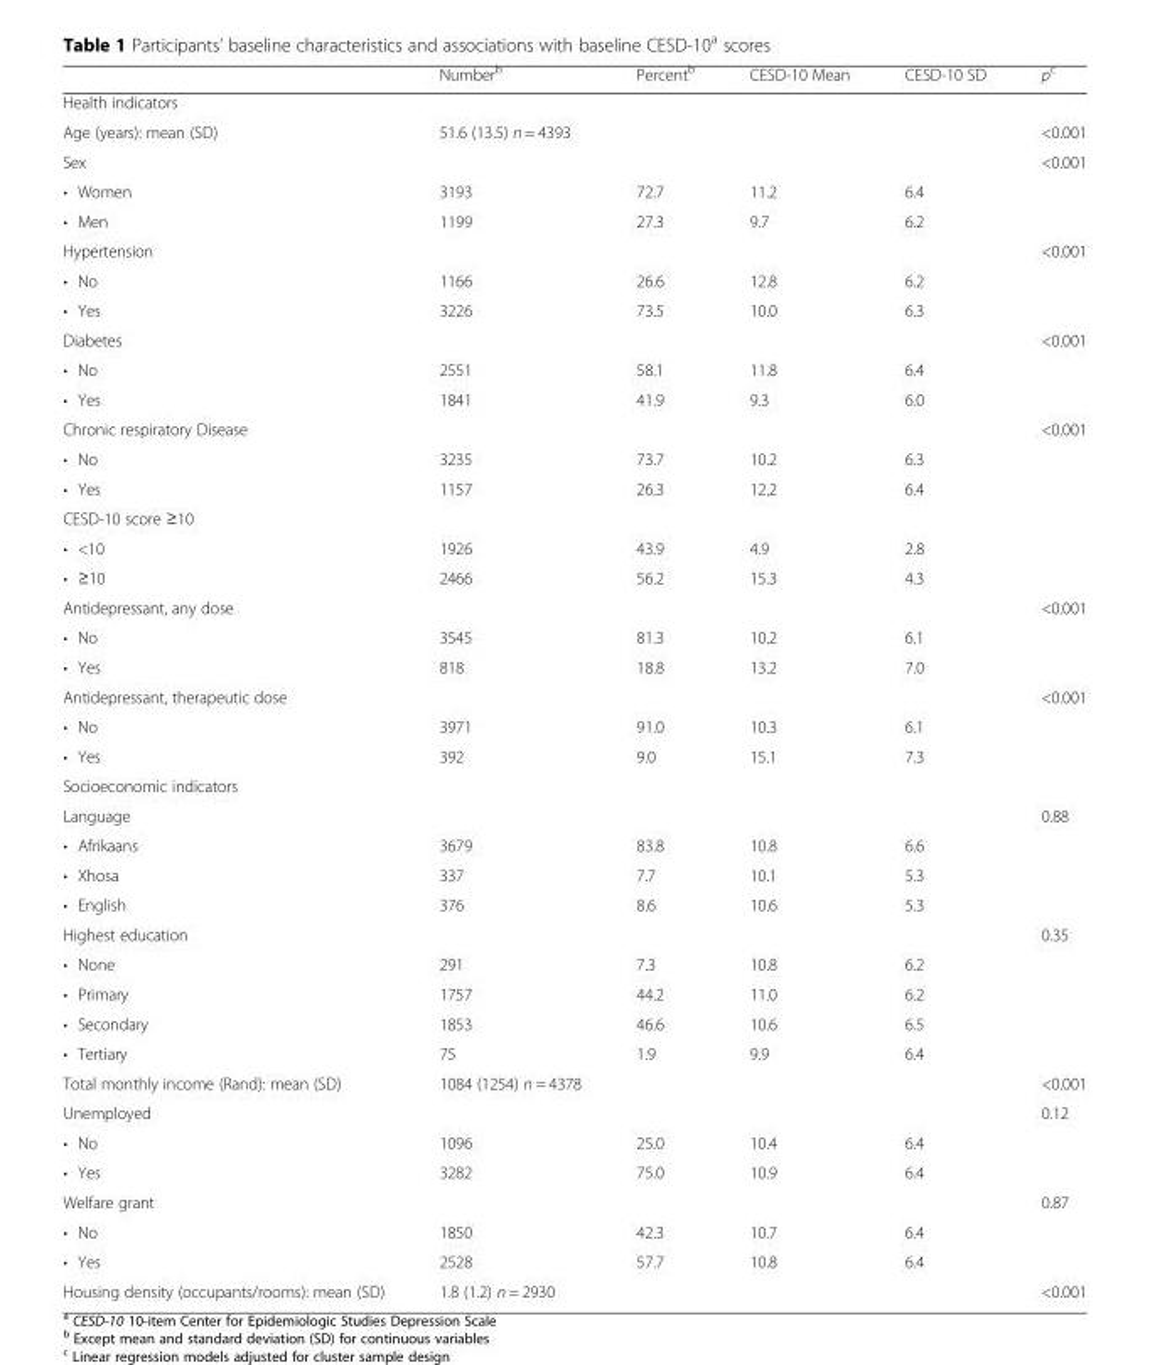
<table><thead><tr><td></td><td>Number<sup>b</sup></td><td>Percent<sup>b</sup></td><td>CESD-10 Mean</td><td>CESD-10 SD</td><td>p<sup>c</sup></td></tr></thead><tbody><tr><td colspan="6">Health indicators</td></tr><tr><td>Age (years): mean (SD)</td><td>51.6 (13.5) n = 4393</td><td></td><td></td><td></td><td>&lt;0.001</td></tr><tr><td>Sex</td><td></td><td></td><td></td><td></td><td>&lt;0.001</td></tr><tr><td>• Women</td><td>3193</td><td>72.7</td><td>11.2</td><td>6.4</td><td></td></tr><tr><td>• Men</td><td>1199</td><td>27.3</td><td>9.7</td><td>6.2</td><td></td></tr><tr><td>Hypertension</td><td></td><td></td><td></td><td></td><td>&lt;0.001</td></tr><tr><td>• No</td><td>1166</td><td>26.6</td><td>12.8</td><td>6.2</td><td></td></tr><tr><td>• Yes</td><td>3226</td><td>73.5</td><td>10.0</td><td>6.3</td><td></td></tr><tr><td>Diabetes</td><td></td><td></td><td></td><td></td><td>&lt;0.001</td></tr><tr><td>• No</td><td>2551</td><td>58.1</td><td>11.8</td><td>6.4</td><td></td></tr><tr><td>• Yes</td><td>1841</td><td>41.9</td><td>9.3</td><td>6.0</td><td></td></tr><tr><td>Chronic respiratory Disease</td><td></td><td></td><td></td><td></td><td>&lt;0.001</td></tr><tr><td>• No</td><td>3235</td><td>73.7</td><td>10.2</td><td>6.3</td><td></td></tr><tr><td>• Yes</td><td>1157</td><td>26.3</td><td>12.2</td><td>6.4</td><td></td></tr><tr><td colspan="6">CESD-10 score ≥10</td></tr><tr><td>• &lt;10</td><td>1926</td><td>43.9</td><td>4.9</td><td>2.8</td><td></td></tr><tr><td>• ≥10</td><td>2466</td><td>56.2</td><td>15.3</td><td>4.3</td><td></td></tr><tr><td>Antidepressant, any dose</td><td></td><td></td><td></td><td></td><td>&lt;0.001</td></tr><tr><td>• No</td><td>3545</td><td>81.3</td><td>10.2</td><td>6.1</td><td></td></tr><tr><td>• Yes</td><td>818</td><td>18.8</td><td>13.2</td><td>7.0</td><td></td></tr><tr><td>Antidepressant, therapeutic dose</td><td></td><td></td><td></td><td></td><td>&lt;0.001</td></tr><tr><td>• No</td><td>3971</td><td>91.0</td><td>10.3</td><td>6.1</td><td></td></tr><tr><td>• Yes</td><td>392</td><td>9.0</td><td>15.1</td><td>7.3</td><td></td></tr><tr><td colspan="6">Socioeconomic indicators</td></tr><tr><td>Language</td><td></td><td></td><td></td><td></td><td>0.88</td></tr><tr><td>• Afrikaans</td><td>3679</td><td>83.8</td><td>10.8</td><td>6.6</td><td></td></tr><tr><td>• Xhosa</td><td>337</td><td>7.7</td><td>10.1</td><td>5.3</td><td></td></tr><tr><td>• English</td><td>376</td><td>8.6</td><td>10.6</td><td>5.3</td><td></td></tr><tr><td>Highest education</td><td></td><td></td><td></td><td></td><td>0.35</td></tr><tr><td>• None</td><td>291</td><td>7.3</td><td>10.8</td><td>6.2</td><td></td></tr><tr><td>• Primary</td><td>1757</td><td>44.2</td><td>11.0</td><td>6.2</td><td></td></tr><tr><td>• Secondary</td><td>1853</td><td>46.6</td><td>10.6</td><td>6.5</td><td></td></tr><tr><td>• Tertiary</td><td>75</td><td>1.9</td><td>9.9</td><td>6.4</td><td></td></tr><tr><td>Total monthly income (Rand): mean (SD)</td><td>1084 (1254) n = 4378</td><td></td><td></td><td></td><td>&lt;0.001</td></tr><tr><td>Unemployed</td><td></td><td></td><td></td><td></td><td>0.12</td></tr><tr><td>• No</td><td>1096</td><td>25.0</td><td>10.4</td><td>6.4</td><td></td></tr><tr><td>• Yes</td><td>3282</td><td>75.0</td><td>10.9</td><td>6.4</td><td></td></tr><tr><td>Welfare grant</td><td></td><td></td><td></td><td></td><td>0.87</td></tr><tr><td>• No</td><td>1850</td><td>42.3</td><td>10.7</td><td>6.4</td><td></td></tr><tr><td>• Yes</td><td>2528</td><td>57.7</td><td>10.8</td><td>6.4</td><td></td></tr><tr><td>Housing density (occupants/rooms): mean (SD)</td><td>1.8 (1.2) n = 2930</td><td></td><td></td><td></td><td>&lt;0.001</td></tr></tbody></table>